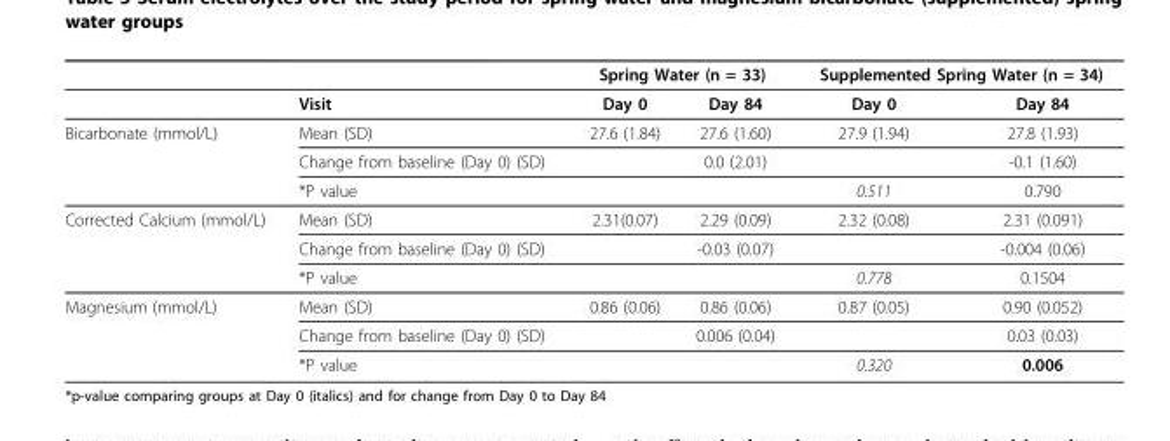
<table><thead><tr><td rowspan="2"></td><td rowspan="2">Visit</td><td colspan="2">Spring Water (n = 33)</td><td colspan="2">Supplemented Spring Water (n = 34)</td></tr><tr><td>Day 0</td><td>Day 84</td><td>Day 0</td><td>Day 84</td></tr></thead><tbody><tr><td rowspan="3">Bicarbonate (mmol/L)</td><td>Mean (SD)</td><td>27.6 (1.84)</td><td>27.6 (1.60)</td><td>27.9 (1.94)</td><td>27.8 (1.93)</td></tr><tr><td>Change from baseline (Day 0) (SD)</td><td></td><td>0.0 (2.01)</td><td></td><td>-0.1 (1.60)</td></tr><tr><td>*P value</td><td></td><td></td><td>0.511</td><td>0.790</td></tr><tr><td rowspan="3">Corrected Calcium (mmol/L)</td><td>Mean (SD)</td><td>2.31(0.07)</td><td>2.29 (0.09)</td><td>2.32 (0.08)</td><td>2.31 (0.091)</td></tr><tr><td>Change from baseline (Day 0) (SD)</td><td></td><td>-0.03 (0.07)</td><td></td><td>-0.004 (0.06)</td></tr><tr><td>*P value</td><td></td><td></td><td>0.778</td><td>0.1504</td></tr><tr><td rowspan="3">Magnesium (mmol/L)</td><td>Mean (SD)</td><td>0.86 (0.06)</td><td>0.86 (0.06)</td><td>0.87 (0.05)</td><td>0.90 (0.052)</td></tr><tr><td>Change from baseline (Day 0) (SD)</td><td></td><td>0.006 (0.04)</td><td></td><td>0.03 (0.03)</td></tr><tr><td>*P value</td><td></td><td></td><td>0.320</td><td>0.006</td></tr></tbody></table>